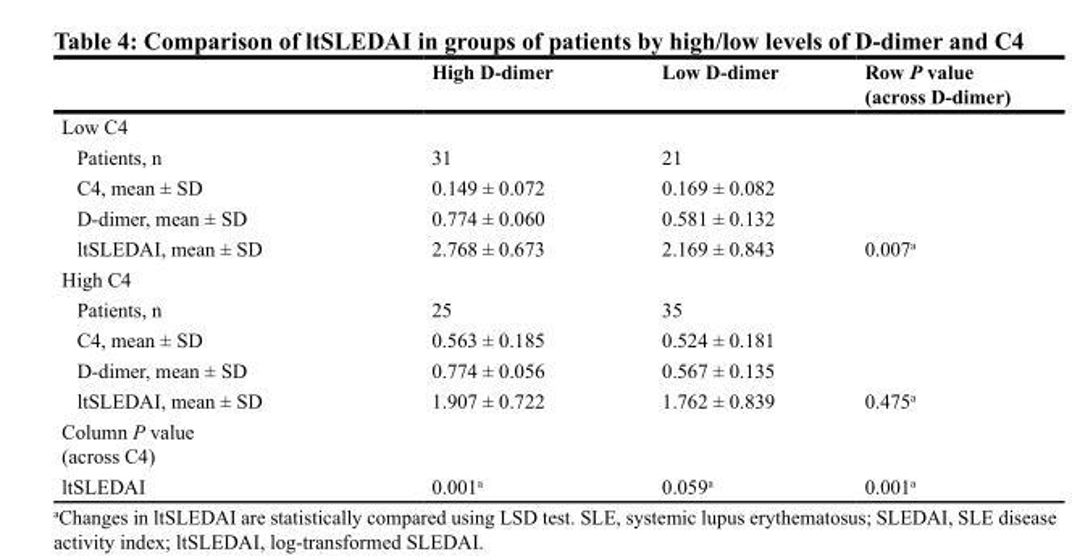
<table><thead><tr><td></td><td>High D-dimer</td><td>Low D-dimer</td><td>Row P value (across D-dimer)</td></tr></thead><tbody><tr><td colspan="4">Low C4</td></tr><tr><td>Patients, n</td><td>31</td><td>21</td><td></td></tr><tr><td>C4, mean ± SD</td><td>0.149 ± 0.072</td><td>0.169 ± 0.082</td><td></td></tr><tr><td>D-dimer, mean ± SD</td><td>0.774 ± 0.060</td><td>0.581 ± 0.132</td><td></td></tr><tr><td>ltSLEDAI, mean ± SD</td><td>2.768 ± 0.673</td><td>2.169 ± 0.843</td><td>0.007<sup>a</sup></td></tr><tr><td colspan="4">High C4</td></tr><tr><td>Patients, n</td><td>25</td><td>35</td><td></td></tr><tr><td>C4, mean ± SD</td><td>0.563 ± 0.185</td><td>0.524 ± 0.181</td><td></td></tr><tr><td>D-dimer, mean ± SD</td><td>0.774 ± 0.056</td><td>0.567 ± 0.135</td><td></td></tr><tr><td>ltSLEDAI, mean ± SD</td><td>1.907 ± 0.722</td><td>1.762 ± 0.839</td><td>0.475<sup>a</sup></td></tr><tr><td colspan="4">Column P value (across C4)</td></tr><tr><td>ltSLEDAI</td><td>0.001<sup>a</sup></td><td>0.059<sup>a</sup></td><td>0.001<sup>a</sup></td></tr></tbody></table>